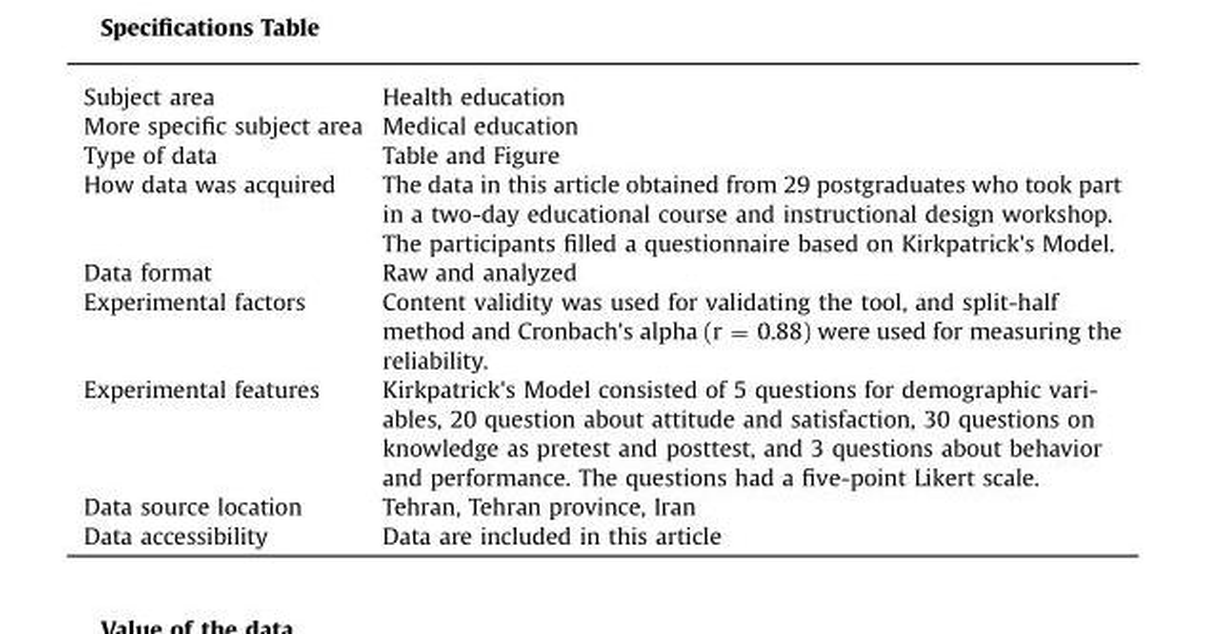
<table><tbody><tr><td>Subject area</td><td>Health education</td></tr><tr><td>More specific subject area</td><td>Medical education</td></tr><tr><td>Type of data</td><td>Table and Figure</td></tr><tr><td>How data was acquired</td><td>The data in this article obtained from 29 postgraduates who took part in a two-day educational course and instructional design workshop. The participants filled a questionnaire based on Kirkpatrick&#x27;s Model.</td></tr><tr><td>Data format</td><td>Raw and analyzed</td></tr><tr><td>Experimental factors</td><td>Content validity was used for validating the tool, and split-half method and Cronbach&#x27;s alpha (r = 0.88) were used for measuring the reliability.</td></tr><tr><td>Experimental features</td><td>Kirkpatrick&#x27;s Model consisted of 5 questions for demographic vari- ables, 20 question about attitude and satisfaction, 30 questions on knowledge as pretest and posttest, and 3 questions about behavior and performance. The questions had a five-point Likert scale.</td></tr><tr><td>Data source location</td><td>Tehran, Tehran province, Iran</td></tr><tr><td>Data accessibility</td><td>Data are included in this article</td></tr></tbody></table>